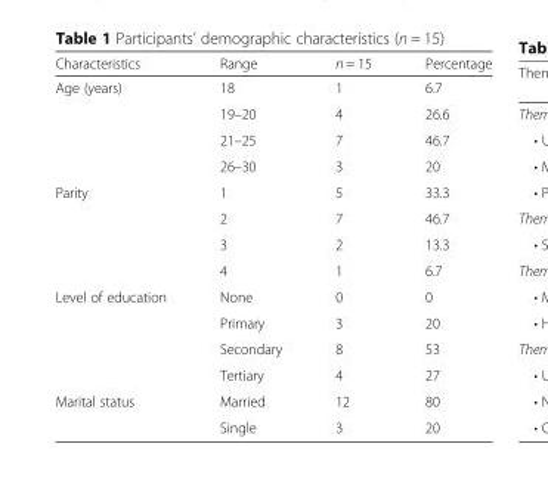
<table><thead><tr><td>Characteristics</td><td>Range</td><td>n = 15</td><td>Percentage</td></tr></thead><tbody><tr><td rowspan="4">Age (years)</td><td>18</td><td>1</td><td>6.7</td></tr><tr><td>19–20</td><td>4</td><td>26.6</td></tr><tr><td>21–25</td><td>7</td><td>46.7</td></tr><tr><td>26–30</td><td>3</td><td>20</td></tr><tr><td rowspan="4">Parity</td><td>1</td><td>5</td><td>33.3</td></tr><tr><td>2</td><td>7</td><td>46.7</td></tr><tr><td>3</td><td>2</td><td>13.3</td></tr><tr><td>4</td><td>1</td><td>6.7</td></tr><tr><td rowspan="4">Level of education</td><td>None</td><td>0</td><td>0</td></tr><tr><td>Primary</td><td>3</td><td>20</td></tr><tr><td>Secondary</td><td>8</td><td>53</td></tr><tr><td>Tertiary</td><td>4</td><td>27</td></tr><tr><td rowspan="2">Marital status</td><td>Married</td><td>12</td><td>80</td></tr><tr><td>Single</td><td>3</td><td>20</td></tr></tbody></table>